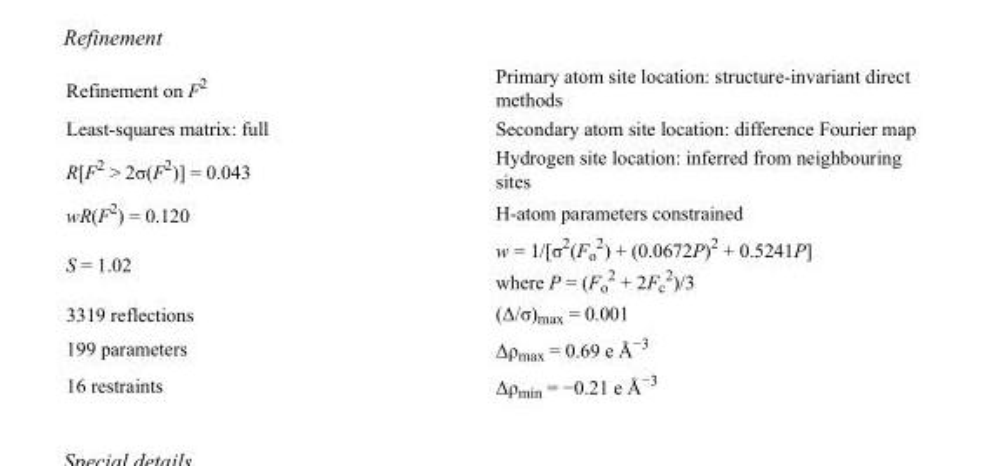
<table><tbody><tr><td>Refinement on F<sup>2</sup></td><td>Primary atom site location: structure-invariant direct methods</td></tr><tr><td>Least-squares matrix: full</td><td>Secondary atom site location: difference Fourier map</td></tr><tr><td>R[F<sup>2</sup> &gt; 2σ(F<sup>2</sup>)] = 0.043</td><td>Hydrogen site location: inferred from neighbouring sites</td></tr><tr><td>wR(F<sup>2</sup>) = 0.120</td><td>H-atom parameters constrained</td></tr><tr><td>S = 1.02</td><td>w = 1/[σ<sup>2</sup>(F<sub>o</sub> <sup>2</sup>) + (0.0672P)<sup>2</sup> + 0.5241P] where P = (F<sub>o</sub> <sup>2</sup> + 2F<sub>c</sub> <sup>2</sup>)/3</td></tr><tr><td>3319 reflections</td><td>(Δ/σ)<sub>max</sub> = 0.001</td></tr><tr><td>199 parameters</td><td>Δρ<sub>max</sub> = 0.69 e Å<sup>−3</sup></td></tr><tr><td>16 restraints</td><td>Δρ<sub>min</sub> = −0.21 e Å<sup>−3</sup></td></tr></tbody></table>